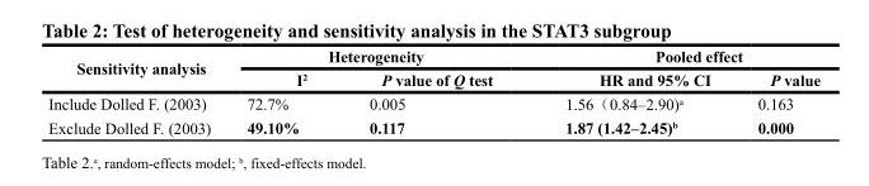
<table><thead><tr><td rowspan="2">Sensitivity analysis</td><td colspan="2">Heterogeneity</td><td colspan="2">Pooled effect</td></tr><tr><td>I<sup>2</sup></td><td>P value of Q test</td><td>HR and 95% CI</td><td>P value</td></tr></thead><tbody><tr><td>Include Dolled F. (2003)</td><td>72.7%</td><td>0.005</td><td>1.56（0.84–2.90)<sup>a</sup></td><td>0.163</td></tr><tr><td>Exclude Dolled F. (2003)</td><td>49.10%</td><td>0.117</td><td>1.87 (1.42–2.45)<sup>b</sup></td><td>0.000</td></tr></tbody></table>